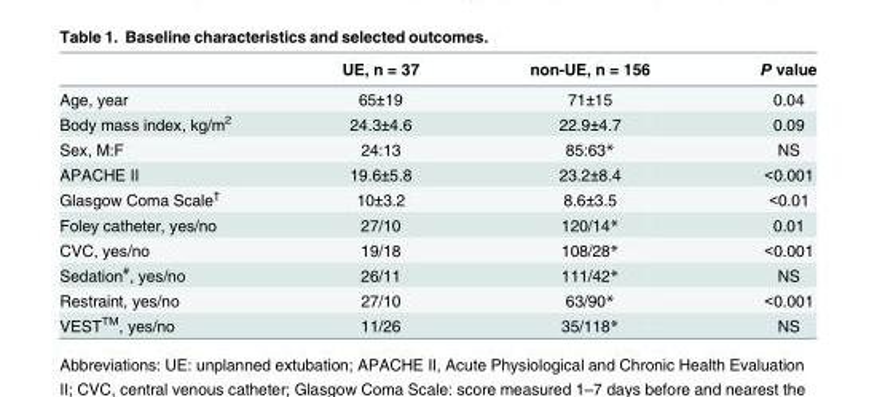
<table><thead><tr><td></td><td>UE, n = 37</td><td>non-UE, n = 156</td><td>P value</td></tr></thead><tbody><tr><td>Age, year</td><td>65±19</td><td>71±15</td><td>0.04</td></tr><tr><td>Body mass index, kg/m<sup>2</sup></td><td>24.3±4.6</td><td>22.9±4.7</td><td>0.09</td></tr><tr><td>Sex, M:F</td><td>24:13</td><td>85:63*</td><td>NS</td></tr><tr><td>APACHE II</td><td>19.6±5.8</td><td>23.2±8.4</td><td>&lt;0.001</td></tr><tr><td>Glasgow Coma Scale<sup>†</sup></td><td>10±3.2</td><td>8.6±3.5</td><td>&lt;0.01</td></tr><tr><td>Foley catheter, yes/no</td><td>27/10</td><td>120/14*</td><td>0.01</td></tr><tr><td>CVC, yes/no</td><td>19/18</td><td>108/28*</td><td>&lt;0.001</td></tr><tr><td>Sedation<sup>#</sup>, yes/no</td><td>26/11</td><td>111/42*</td><td>NS</td></tr><tr><td>Restraint, yes/no</td><td>27/10</td><td>63/90*</td><td>&lt;0.001</td></tr><tr><td>VEST<sup>TM</sup>, yes/no</td><td>11/26</td><td>35/118*</td><td>NS</td></tr></tbody></table>